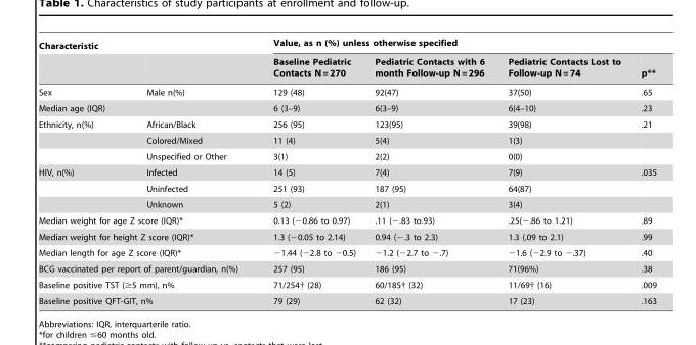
<table><thead><tr><td colspan="2">Characteristic</td><td colspan="4">Value, as n (%) unless otherwise specified</td></tr><tr><td></td><td></td><td>Baseline Pediatric Contacts N = 270</td><td>Pediatric Contacts with 6 month Follow-up N = 296</td><td>Pediatric Contacts Lost to Follow-up N = 74</td><td>p**</td></tr></thead><tbody><tr><td>Sex</td><td>Male n(%)</td><td>129 (48)</td><td>92(47)</td><td>37(50)</td><td>.65</td></tr><tr><td colspan="2">Median age (IQR)</td><td>6 (3–9)</td><td>6(3–9)</td><td>6(4–10)</td><td>.23</td></tr><tr><td rowspan="3">Ethnicity, n(%)</td><td>African/Black</td><td>256 (95)</td><td>123(95)</td><td>39(98)</td><td>.21</td></tr><tr><td>Colored/Mixed</td><td>11 (4)</td><td>5(4)</td><td>1(3)</td><td></td></tr><tr><td>Unspecified or Other</td><td>3(1)</td><td>2(2)</td><td>0(0)</td><td></td></tr><tr><td rowspan="3">HIV, n(%)</td><td>Infected</td><td>14 (5)</td><td>7(4)</td><td>7(9)</td><td>.035</td></tr><tr><td>Uninfected</td><td>251 (93)</td><td>187 (95)</td><td>64(87)</td><td></td></tr><tr><td>Unknown</td><td>5 (2)</td><td>2(1)</td><td>3(4)</td><td></td></tr><tr><td colspan="2">Median weight for age Z score (IQR)*</td><td>0.13 (−0.86 to 0.97)</td><td>.11 (−.83 to.93)</td><td>.25(−.86 to 1.21)</td><td>.89</td></tr><tr><td colspan="2">Median weight for height Z score (IQR)*</td><td>1.3 (−0.05 to 2.14)</td><td>0.94 (−.3 to 2.3)</td><td>1.3 (.09 to 2.1)</td><td>.99</td></tr><tr><td colspan="2">Median length for age Z score (IQR)*</td><td>−1.44 (−2.8 to −0.5)</td><td>−1.2 (−2.7 to −.7)</td><td>−1.6 (−2.9 to −.37)</td><td>.40</td></tr><tr><td colspan="2">BCG vaccinated per report of parent/guardian, n(%)</td><td>257 (95)</td><td>186 (95)</td><td>71(96%)</td><td>.38</td></tr><tr><td colspan="2">Baseline positive TST (≥5 mm), n%</td><td>71/254† (28)</td><td>60/185† (32)</td><td>11/69† (16)</td><td>.009</td></tr><tr><td colspan="2">Baseline positive QFT-GIT, n%</td><td>79 (29)</td><td>62 (32)</td><td>17 (23)</td><td>.163</td></tr></tbody></table>